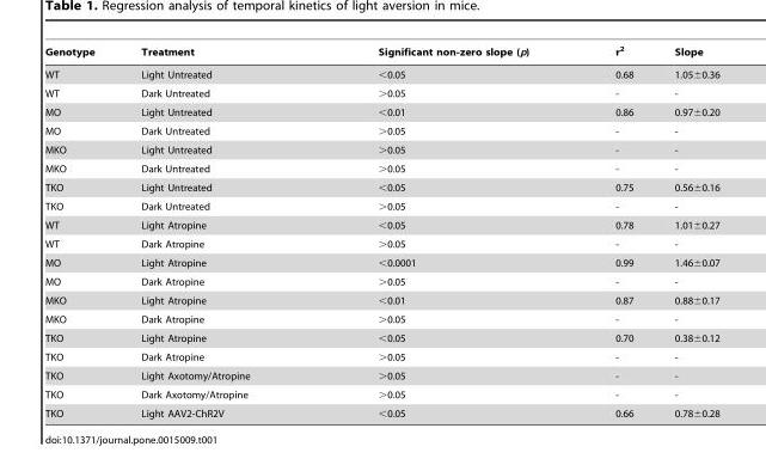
<table><thead><tr><td>Genotype</td><td>Treatment</td><td>Significant non-zero slope (p)</td><td>r<sup>2</sup></td><td>Slope</td></tr></thead><tbody><tr><td>WT</td><td>Light Untreated</td><td>&lt;0.05</td><td>0.68</td><td>1.05±0.36</td></tr><tr><td>WT</td><td>Dark Untreated</td><td>&gt;0.05</td><td>-</td><td>-</td></tr><tr><td>MO</td><td>Light Untreated</td><td>&lt;0.01</td><td>0.86</td><td>0.97±0.20</td></tr><tr><td>MO</td><td>Dark Untreated</td><td>&gt;0.05</td><td>-</td><td>-</td></tr><tr><td>MKO</td><td>Light Untreated</td><td>&gt;0.05</td><td>-</td><td>-</td></tr><tr><td>MKO</td><td>Dark Untreated</td><td>&gt;0.05</td><td>-</td><td>-</td></tr><tr><td>TKO</td><td>Light Untreated</td><td>&lt;0.05</td><td>0.75</td><td>0.56±0.16</td></tr><tr><td>TKO</td><td>Dark Untreated</td><td>&gt;0.05</td><td>-</td><td>-</td></tr><tr><td>WT</td><td>Light Atropine</td><td>&lt;0.05</td><td>0.78</td><td>1.01±0.27</td></tr><tr><td>WT</td><td>Dark Atropine</td><td>&gt;0.05</td><td>-</td><td>-</td></tr><tr><td>MO</td><td>Light Atropine</td><td>&lt;0.0001</td><td>0.99</td><td>1.46±0.07</td></tr><tr><td>MO</td><td>Dark Atropine</td><td>&gt;0.05</td><td>-</td><td>-</td></tr><tr><td>MKO</td><td>Light Atropine</td><td>&lt;0.01</td><td>0.87</td><td>0.88±0.17</td></tr><tr><td>MKO</td><td>Dark Atropine</td><td>&gt;0.05</td><td>-</td><td>-</td></tr><tr><td>TKO</td><td>Light Atropine</td><td>&lt;0.05</td><td>0.70</td><td>0.38±0.12</td></tr><tr><td>TKO</td><td>Dark Atropine</td><td>&gt;0.05</td><td>-</td><td>-</td></tr><tr><td>TKO</td><td>Light Axotomy/Atropine</td><td>&gt;0.05</td><td>-</td><td>-</td></tr><tr><td>TKO</td><td>Dark Axotomy/Atropine</td><td>&gt;0.05</td><td>-</td><td>-</td></tr><tr><td>TKO</td><td>Light AAV2-ChR2V</td><td>&lt;0.05</td><td>0.66</td><td>0.78±0.28</td></tr></tbody></table>